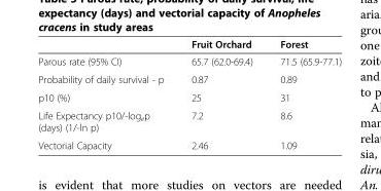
<table><thead><tr><td></td><td>Fruit Orchard</td><td>Forest</td></tr></thead><tbody><tr><td>Parous rate (95% CI)</td><td>65.7 (62.0-69.4)</td><td>71.5 (65.9-77.1)</td></tr><tr><td>Probability of daily survival - p</td><td>0.87</td><td>0.89</td></tr><tr><td>p10 (%)</td><td>25</td><td>31</td></tr><tr><td>Life Expectancy p10/-log<sub>e</sub>p (days) (1/-ln p)</td><td>7.2</td><td>8.6</td></tr><tr><td>Vectorial Capacity</td><td>2.46</td><td>1.09</td></tr></tbody></table>